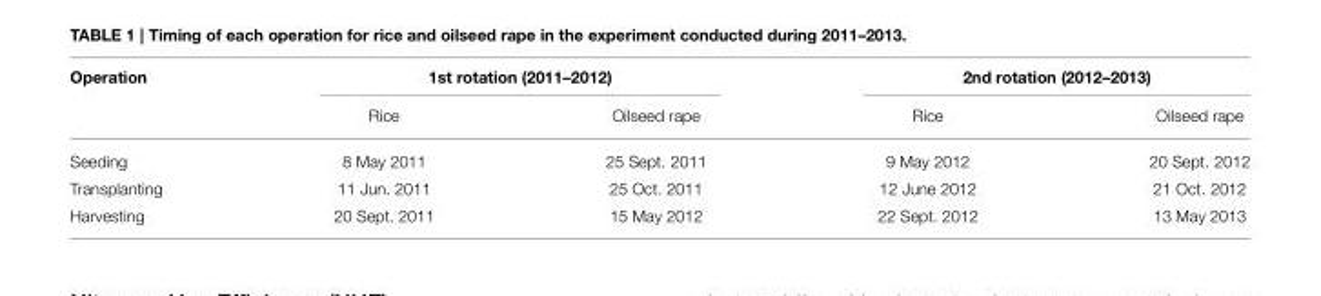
<table><thead><tr><td rowspan="2">Operation</td><td colspan="2">1st rotation (2011–2012)</td><td colspan="2">2nd rotation (2012–2013)</td></tr><tr><td>Rice</td><td>Oilseed rape</td><td>Rice</td><td>Oilseed rape</td></tr></thead><tbody><tr><td>Seeding</td><td>8 May 2011</td><td>25 Sept. 2011</td><td>9 May 2012</td><td>20 Sept. 2012</td></tr><tr><td>Transplanting</td><td>11 Jun. 2011</td><td>25 Oct. 2011</td><td>12 June 2012</td><td>21 Oct. 2012</td></tr><tr><td>Harvesting</td><td>20 Sept. 2011</td><td>15 May 2012</td><td>22 Sept. 2012</td><td>13 May 2013</td></tr></tbody></table>